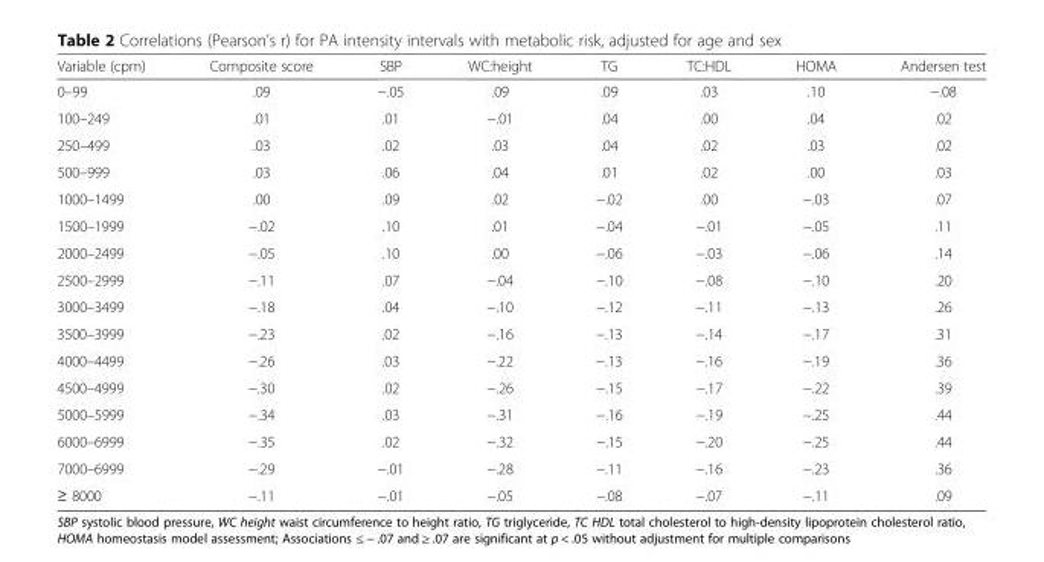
<table><thead><tr><td>Variable (cpm)</td><td>Composite score</td><td>SBP</td><td>WC:height</td><td>TG</td><td>TC:HDL</td><td>HOMA</td><td>Andersen test</td></tr></thead><tbody><tr><td>0–99</td><td>.09</td><td>−.05</td><td>.09</td><td>.09</td><td>.03</td><td>.10</td><td>−.08</td></tr><tr><td>100–249</td><td>.01</td><td>.01</td><td>−.01</td><td>.04</td><td>.00</td><td>.04</td><td>.02</td></tr><tr><td>250–499</td><td>.03</td><td>.02</td><td>.03</td><td>.04</td><td>.02</td><td>.03</td><td>.02</td></tr><tr><td>500–999</td><td>.03</td><td>.06</td><td>.04</td><td>.01</td><td>.02</td><td>.00</td><td>.03</td></tr><tr><td>1000–1499</td><td>.00</td><td>.09</td><td>.02</td><td>−.02</td><td>.00</td><td>−.03</td><td>.07</td></tr><tr><td>1500–1999</td><td>−.02</td><td>.10</td><td>.01</td><td>−.04</td><td>−.01</td><td>−.05</td><td>.11</td></tr><tr><td>2000–2499</td><td>−.05</td><td>.10</td><td>.00</td><td>−.06</td><td>−.03</td><td>−.06</td><td>.14</td></tr><tr><td>2500–2999</td><td>−.11</td><td>.07</td><td>−.04</td><td>−.10</td><td>−.08</td><td>−.10</td><td>.20</td></tr><tr><td>3000–3499</td><td>−.18</td><td>.04</td><td>−.10</td><td>−.12</td><td>−.11</td><td>−.13</td><td>.26</td></tr><tr><td>3500–3999</td><td>−.23</td><td>.02</td><td>−.16</td><td>−.13</td><td>−.14</td><td>−.17</td><td>.31</td></tr><tr><td>4000–4499</td><td>−.26</td><td>.03</td><td>−.22</td><td>−.13</td><td>−.16</td><td>−.19</td><td>.36</td></tr><tr><td>4500–4999</td><td>−.30</td><td>.02</td><td>−.26</td><td>−.15</td><td>−.17</td><td>−.22</td><td>.39</td></tr><tr><td>5000–5999</td><td>−.34</td><td>.03</td><td>−.31</td><td>−.16</td><td>−.19</td><td>−.25</td><td>.44</td></tr><tr><td>6000–6999</td><td>−.35</td><td>.02</td><td>−.32</td><td>−.15</td><td>−.20</td><td>−.25</td><td>.44</td></tr><tr><td>7000–6999</td><td>−.29</td><td>−.01</td><td>−.28</td><td>−.11</td><td>−.16</td><td>−.23</td><td>.36</td></tr><tr><td>≥ 8000</td><td>−.11</td><td>−.01</td><td>−.05</td><td>−.08</td><td>−.07</td><td>−.11</td><td>.09</td></tr></tbody></table>